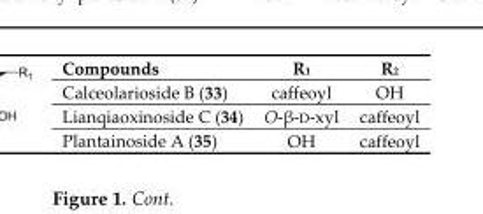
<table><tbody><tr><td>Compounds</td><td>R<sub>1</sub></td><td>R<sub>2</sub></td></tr><tr><td>Calceolarioside B (33)</td><td>caffeoyl</td><td>OH</td></tr><tr><td>Lianqiaoxinoside C (34)</td><td>O-β-D-xyl</td><td>caffeoyl</td></tr><tr><td>Plantainoside A (35)</td><td>OH</td><td>caffeoyl</td></tr></tbody></table>